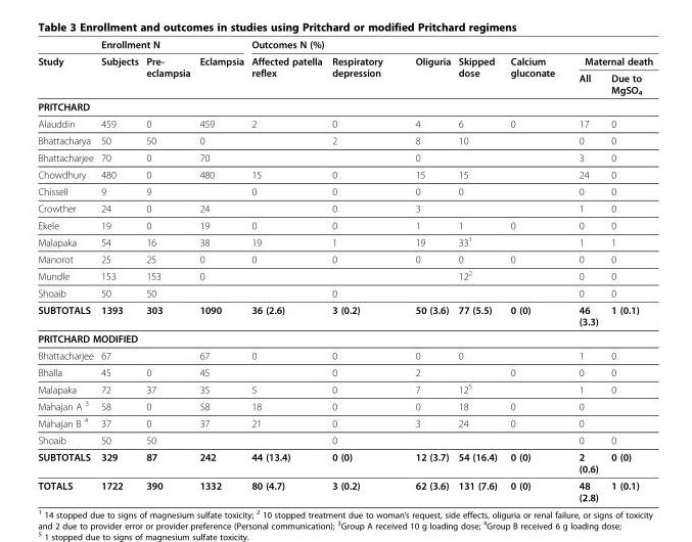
<table><thead><tr><td rowspan="3">Study</td><td colspan="3">Enrollment N</td><td colspan="7">Outcomes N (%)</td></tr><tr><td rowspan="2">Subjects</td><td rowspan="2">Pre- eclampsia</td><td rowspan="2">Eclampsia</td><td rowspan="2">Affected patella reflex</td><td rowspan="2">Respiratory depression</td><td rowspan="2">Oliguria</td><td rowspan="2">Skipped dose</td><td rowspan="2">Calcium gluconate</td><td colspan="2">Maternal death</td></tr><tr><td>All</td><td>Due to MgSO<sub>4</sub></td></tr></thead><tbody><tr><td colspan="11">PRITCHARD</td></tr><tr><td>Alauddin</td><td>459</td><td>0</td><td>459</td><td>2</td><td>0</td><td>4</td><td>6</td><td>0</td><td>17</td><td>0</td></tr><tr><td>Bhattacharya</td><td>50</td><td>50</td><td>0</td><td></td><td>2</td><td>8</td><td>10</td><td></td><td>0</td><td>0</td></tr><tr><td>Bhattacharjee</td><td>70</td><td>0</td><td>70</td><td></td><td></td><td>0</td><td></td><td></td><td>3</td><td>0</td></tr><tr><td>Chowdhury</td><td>480</td><td>0</td><td>480</td><td>15</td><td>0</td><td>15</td><td>15</td><td></td><td>24</td><td>0</td></tr><tr><td>Chissell</td><td>9</td><td>9</td><td></td><td>0</td><td>0</td><td>0</td><td>0</td><td></td><td>0</td><td>0</td></tr><tr><td>Crowther</td><td>24</td><td>0</td><td>24</td><td></td><td>0</td><td>3</td><td></td><td></td><td>1</td><td>0</td></tr><tr><td>Ekele</td><td>19</td><td>0</td><td>19</td><td>0</td><td>0</td><td>1</td><td>1</td><td>0</td><td>0</td><td>0</td></tr><tr><td>Malapaka</td><td>54</td><td>16</td><td>38</td><td>19</td><td>1</td><td>19</td><td>33<sup>1</sup></td><td></td><td>1</td><td>1</td></tr><tr><td>Manorot</td><td>25</td><td>25</td><td>0</td><td>0</td><td>0</td><td>0</td><td>0</td><td>0</td><td>0</td><td>0</td></tr><tr><td>Mundle</td><td>153</td><td>153</td><td>0</td><td></td><td></td><td></td><td>12<sup>2</sup></td><td></td><td>0</td><td>0</td></tr><tr><td>Shoaib</td><td>50</td><td>50</td><td></td><td></td><td>0</td><td></td><td></td><td></td><td>0</td><td>0</td></tr><tr><td>SUBTOTALS</td><td>1393</td><td>303</td><td>1090</td><td>36 (2.6)</td><td>3 (0.2)</td><td>50 (3.6)</td><td>77 (5.5)</td><td>0 (0)</td><td>46 (3.3)</td><td>1 (0.1)</td></tr><tr><td colspan="11">PRITCHARD MODIFIED</td></tr><tr><td>Bhattacharjee</td><td>67</td><td></td><td>67</td><td>0</td><td>0</td><td>0</td><td>0</td><td></td><td>1</td><td>0</td></tr><tr><td>Bhalla</td><td>45</td><td>0</td><td>45</td><td></td><td>0</td><td>2</td><td></td><td>0</td><td>0</td><td>0</td></tr><tr><td>Malapaka</td><td>72</td><td>37</td><td>35</td><td>5</td><td>0</td><td>7</td><td>12<sup>5</sup></td><td></td><td>1</td><td>0</td></tr><tr><td>Mahajan A <sup>3</sup></td><td>58</td><td>0</td><td>58</td><td>18</td><td>0</td><td>0</td><td>18</td><td>0</td><td>0</td><td></td></tr><tr><td>Mahajan B <sup>4</sup></td><td>37</td><td>0</td><td>37</td><td>21</td><td>0</td><td>3</td><td>24</td><td>0</td><td>0</td><td></td></tr><tr><td>Shoaib</td><td>50</td><td>50</td><td></td><td></td><td>0</td><td></td><td></td><td></td><td>0</td><td>0</td></tr><tr><td>SUBTOTALS</td><td>329</td><td>87</td><td>242</td><td>44 (13.4)</td><td>0 (0)</td><td>12 (3.7)</td><td>54 (16.4)</td><td>0 (0)</td><td>2 (0.6)</td><td>0 (0)</td></tr><tr><td>TOTALS</td><td>1722</td><td>390</td><td>1332</td><td>80 (4.7)</td><td>3 (0.2)</td><td>62 (3.6)</td><td>131 (7.6)</td><td>0 (0)</td><td>48 (2.8)</td><td>1 (0.1)</td></tr></tbody></table>